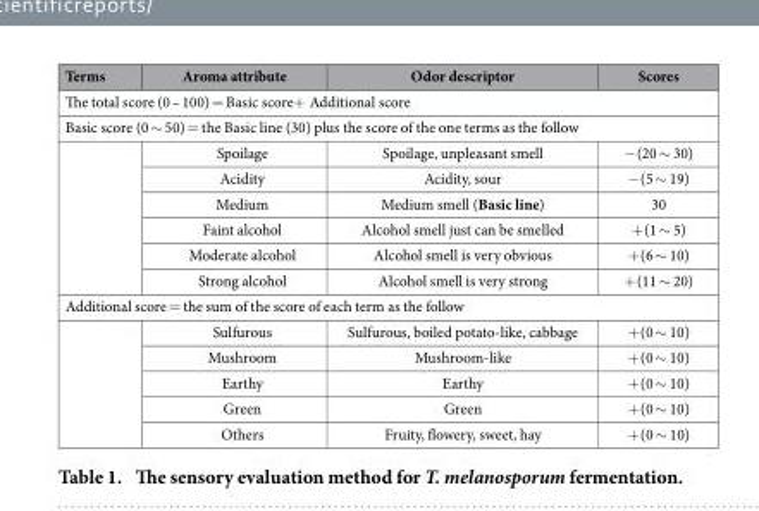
<table><thead><tr><td>Terms</td><td>Aroma attribute</td><td>Odor descriptor</td><td>Scores</td></tr></thead><tbody><tr><td colspan="4">The total score (0 – 100) = Basic score+ Additional score</td></tr><tr><td colspan="4">Basic score (0 ∼ 50) = the Basic line (30) plus the score of the one terms as the follow</td></tr><tr><td rowspan="6"></td><td>Spoilage</td><td>Spoilage, unpleasant smell</td><td>− (20 ∼ 30)</td></tr><tr><td>Acidity</td><td>Acidity, sour</td><td>− (5 ∼ 19)</td></tr><tr><td>Medium</td><td>Medium smell (Basic line)</td><td>30</td></tr><tr><td>Faint alcohol</td><td>Alcohol smell just can be smelled</td><td>+ (1 ∼ 5)</td></tr><tr><td>Moderate alcohol</td><td>Alcohol smell is very obvious</td><td>+ (6 ∼ 10)</td></tr><tr><td>Strong alcohol</td><td>Alcohol smell is very strong</td><td>+ (11 ∼ 20)</td></tr><tr><td colspan="4">Additional score = the sum of the score of each term as the follow</td></tr><tr><td rowspan="5"></td><td>Sulfurous</td><td>Sulfurous, boiled potato-like, cabbage</td><td>+ (0 ∼ 10)</td></tr><tr><td>Mushroom</td><td>Mushroom-like</td><td>+ (0 ∼ 10)</td></tr><tr><td>Earthy</td><td>Earthy</td><td>+ (0 ∼ 10)</td></tr><tr><td>Green</td><td>Green</td><td>+ (0 ∼ 10)</td></tr><tr><td>Others</td><td>Fruity, flowery, sweet, hay</td><td>+ (0 ∼ 10)</td></tr></tbody></table>